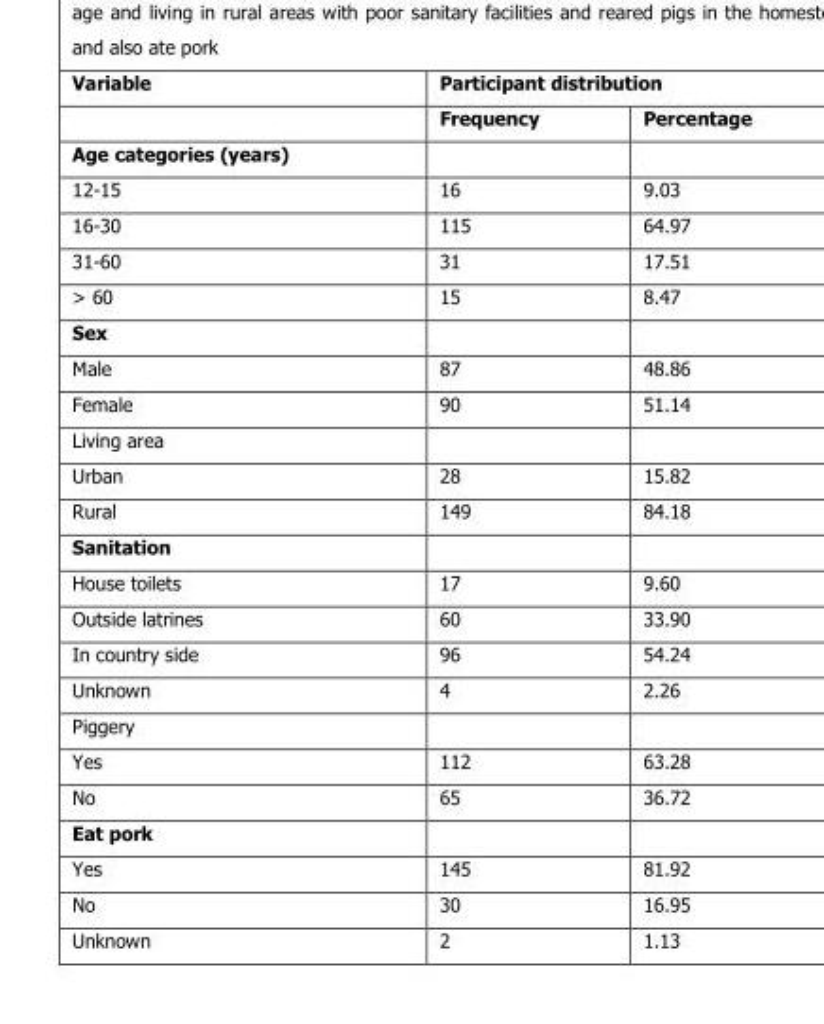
<table><thead><tr><td rowspan="2">Variable</td><td colspan="2">Participant distribution</td></tr><tr><td>Frequency</td><td>Percentage</td></tr></thead><tbody><tr><td colspan="3">Age categories (years)</td></tr><tr><td>12-15</td><td>16</td><td>9.03</td></tr><tr><td>16-30</td><td>115</td><td>64.97</td></tr><tr><td>31-60</td><td>31</td><td>17.51</td></tr><tr><td>&gt; 60</td><td>15</td><td>8.47</td></tr><tr><td colspan="3">Sex</td></tr><tr><td>Male</td><td>87</td><td>48.86</td></tr><tr><td>Female</td><td>90</td><td>51.14</td></tr><tr><td colspan="3">Living area</td></tr><tr><td>Urban</td><td>28</td><td>15.82</td></tr><tr><td>Rural</td><td>149</td><td>84.18</td></tr><tr><td colspan="3">Sanitation</td></tr><tr><td>House toilets</td><td>17</td><td>9.60</td></tr><tr><td>Outside latrines</td><td>60</td><td>33.90</td></tr><tr><td>In country side</td><td>96</td><td>54.24</td></tr><tr><td>Unknown</td><td>4</td><td>2.26</td></tr><tr><td colspan="3">Piggery</td></tr><tr><td>Yes</td><td>112</td><td>63.28</td></tr><tr><td>No</td><td>65</td><td>36.72</td></tr><tr><td colspan="3">Eat pork</td></tr><tr><td>Yes</td><td>145</td><td>81.92</td></tr><tr><td>No</td><td>30</td><td>16.95</td></tr><tr><td>Unknown</td><td>2</td><td>1.13</td></tr></tbody></table>